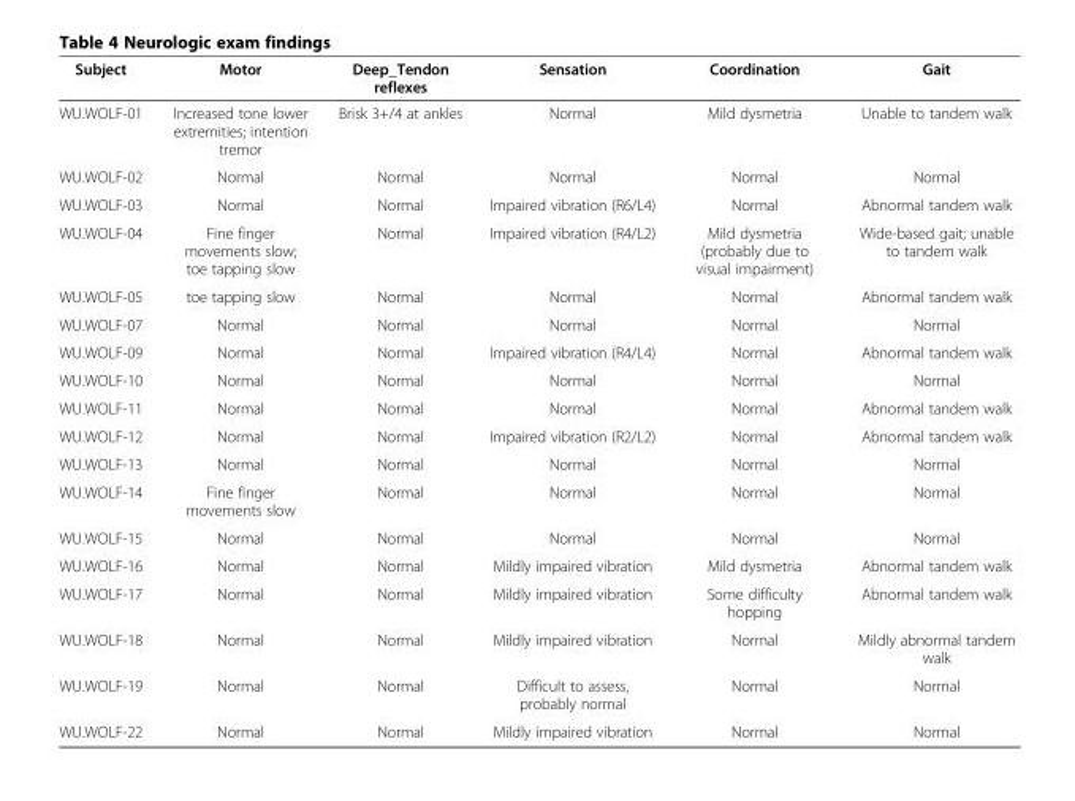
<table><thead><tr><td>Subject</td><td>Motor</td><td>Deep_Tendon reflexes</td><td>Sensation</td><td>Coordination</td><td>Gait</td></tr></thead><tbody><tr><td>WU.WOLF-01</td><td>Increased tone lower extremities; intention tremor</td><td>Brisk 3+/4 at ankles</td><td>Normal</td><td>Mild dysmetria</td><td>Unable to tandem walk</td></tr><tr><td>WU.WOLF-02</td><td>Normal</td><td>Normal</td><td>Normal</td><td>Normal</td><td>Normal</td></tr><tr><td>WU.WOLF-03</td><td>Normal</td><td>Normal</td><td>Impaired vibration (R6/L4)</td><td>Normal</td><td>Abnormal tandem walk</td></tr><tr><td>WU.WOLF-04</td><td>Fine finger movements slow; toe tapping slow</td><td>Normal</td><td>Impaired vibration (R4/L2)</td><td>Mild dysmetria (probably due to visual impairment)</td><td>Wide-based gait; unable to tandem walk</td></tr><tr><td>WU.WOLF-05</td><td>toe tapping slow</td><td>Normal</td><td>Normal</td><td>Normal</td><td>Abnormal tandem walk</td></tr><tr><td>WU.WOLF-07</td><td>Normal</td><td>Normal</td><td>Normal</td><td>Normal</td><td>Normal</td></tr><tr><td>WU.WOLF-09</td><td>Normal</td><td>Normal</td><td>Impaired vibration (R4/L4)</td><td>Normal</td><td>Abnormal tandem walk</td></tr><tr><td>WU.WOLF-10</td><td>Normal</td><td>Normal</td><td>Normal</td><td>Normal</td><td>Normal</td></tr><tr><td>WU.WOLF-11</td><td>Normal</td><td>Normal</td><td>Normal</td><td>Normal</td><td>Abnormal tandem walk</td></tr><tr><td>WU.WOLF-12</td><td>Normal</td><td>Normal</td><td>Impaired vibration (R2/L2)</td><td>Normal</td><td>Abnormal tandem walk</td></tr><tr><td>WU.WOLF-13</td><td>Normal</td><td>Normal</td><td>Normal</td><td>Normal</td><td>Normal</td></tr><tr><td>WU.WOLF-14</td><td>Fine finger movements slow</td><td>Normal</td><td>Normal</td><td>Normal</td><td>Normal</td></tr><tr><td>WU.WOLF-15</td><td>Normal</td><td>Normal</td><td>Normal</td><td>Normal</td><td>Normal</td></tr><tr><td>WU.WOLF-16</td><td>Normal</td><td>Normal</td><td>Mildly impaired vibration</td><td>Mild dysmetria</td><td>Abnormal tandem walk</td></tr><tr><td>WU.WOLF-17</td><td>Normal</td><td>Normal</td><td>Mildly impaired vibration</td><td>Some difficulty hopping</td><td>Abnormal tandem walk</td></tr><tr><td>WU.WOLF-18</td><td>Normal</td><td>Normal</td><td>Mildly impaired vibration</td><td>Normal</td><td>Mildly abnormal tandem walk</td></tr><tr><td>WU.WOLF-19</td><td>Normal</td><td>Normal</td><td>Difficult to assess, probably normal</td><td>Normal</td><td>Normal</td></tr><tr><td>WU.WOLF-22</td><td>Normal</td><td>Normal</td><td>Mildly impaired vibration</td><td>Normal</td><td>Normal</td></tr></tbody></table>